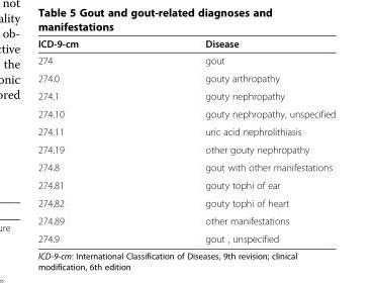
<table><thead><tr><td>ICD-9-cm</td><td>Disease</td></tr></thead><tbody><tr><td>274</td><td>gout</td></tr><tr><td>274.0</td><td>gouty arthropathy</td></tr><tr><td>274.1</td><td>gouty nephropathy</td></tr><tr><td>274.10</td><td>gouty nephropathy, unspecified</td></tr><tr><td>274.11</td><td>uric acid nephrolithiasis</td></tr><tr><td>274.19</td><td>other gouty nephropathy</td></tr><tr><td>274.8</td><td>gout with other manifestations</td></tr><tr><td>274.81</td><td>gouty tophi of ear</td></tr><tr><td>274.82</td><td>gouty tophi of heart</td></tr><tr><td>274.89</td><td>other manifestations</td></tr><tr><td>274.9</td><td>gout , unspecified</td></tr></tbody></table>